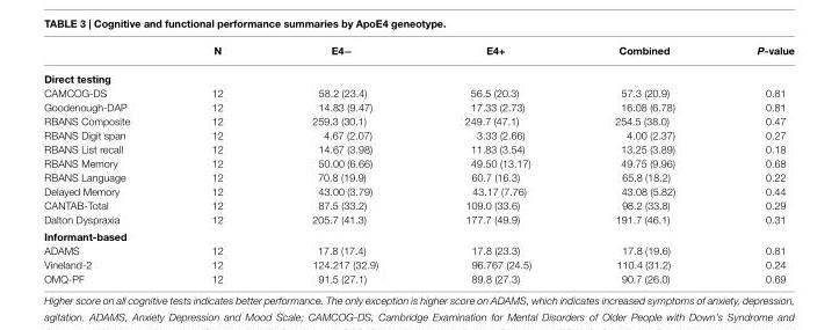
<table><thead><tr><td></td><td>N</td><td>E4−</td><td>E4+</td><td>Combined</td><td>P-value</td></tr></thead><tbody><tr><td colspan="6">Direct testing</td></tr><tr><td>CAMCOG-DS</td><td>12</td><td>58.2 (23.4)</td><td>56.5 (20.3)</td><td>57.3 (20.9)</td><td>0.81</td></tr><tr><td>Goodenough-DAP</td><td>12</td><td>14.83 (9.47)</td><td>17.33 (2.73)</td><td>16.08 (6.78)</td><td>0.81</td></tr><tr><td>RBANS Composite</td><td>12</td><td>259.3 (30.1)</td><td>249.7 (47.1)</td><td>254.5 (38.0)</td><td>0.47</td></tr><tr><td>RBANS Digit span</td><td>12</td><td>4.67 (2.07)</td><td>3.33 (2.66)</td><td>4.00 (2.37)</td><td>0.27</td></tr><tr><td>RBANS List recall</td><td>12</td><td>14.67 (3.98)</td><td>11.83 (3.54)</td><td>13.25 (3.89)</td><td>0.18</td></tr><tr><td>RBANS Memory</td><td>12</td><td>50.00 (6.66)</td><td>49.50 (13.17)</td><td>49.75 (9.96)</td><td>0.68</td></tr><tr><td>RBANS Language</td><td>12</td><td>70.8 (19.9)</td><td>60.7 (16.3)</td><td>65.8 (18.2)</td><td>0.22</td></tr><tr><td>Delayed Memory</td><td>12</td><td>43.00 (3.79)</td><td>43.17 (7.76)</td><td>43.08 (5.82)</td><td>0.44</td></tr><tr><td>CANTAB-Total</td><td>12</td><td>87.5 (33.2)</td><td>109.0 (33.6)</td><td>98.2 (33.8)</td><td>0.29</td></tr><tr><td>Dalton Dyspraxia</td><td>12</td><td>205.7 (41.3)</td><td>177.7 (49.9)</td><td>191.7 (46.1)</td><td>0.31</td></tr><tr><td colspan="6">Informant-based</td></tr><tr><td>ADAMS</td><td>12</td><td>17.8 (17.4)</td><td>17.8 (23.3)</td><td>17.8 (19.6)</td><td>0.81</td></tr><tr><td>Vineland-2</td><td>12</td><td>124.217 (32.9)</td><td>96.767 (24.5)</td><td>110.4 (31.2)</td><td>0.24</td></tr><tr><td>OMQ-PF</td><td>12</td><td>91.5 (27.1)</td><td>89.8 (27.3)</td><td>90.7 (26.0)</td><td>0.69</td></tr></tbody></table>